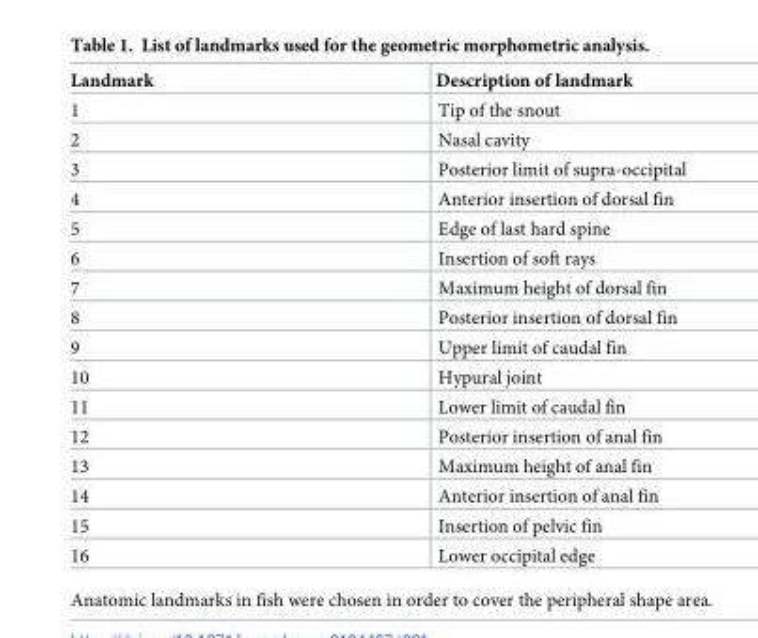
<table><thead><tr><td>Landmark</td><td>Description of landmark</td></tr></thead><tbody><tr><td>1</td><td>Tip of the snout</td></tr><tr><td>2</td><td>Nasal cavity</td></tr><tr><td>3</td><td>Posterior limit of supra-occipital</td></tr><tr><td>4</td><td>Anterior insertion of dorsal fin</td></tr><tr><td>5</td><td>Edge of last hard spine</td></tr><tr><td>6</td><td>Insertion of soft rays</td></tr><tr><td>7</td><td>Maximum height of dorsal fin</td></tr><tr><td>8</td><td>Posterior insertion of dorsal fin</td></tr><tr><td>9</td><td>Upper limit of caudal fin</td></tr><tr><td>10</td><td>Hypural joint</td></tr><tr><td>11</td><td>Lower limit of caudal fin</td></tr><tr><td>12</td><td>Posterior insertion of anal fin</td></tr><tr><td>13</td><td>Maximum height of anal fin</td></tr><tr><td>14</td><td>Anterior insertion of anal fin</td></tr><tr><td>15</td><td>Insertion of pelvic fin</td></tr><tr><td>16</td><td>Lower occipital edge</td></tr></tbody></table>